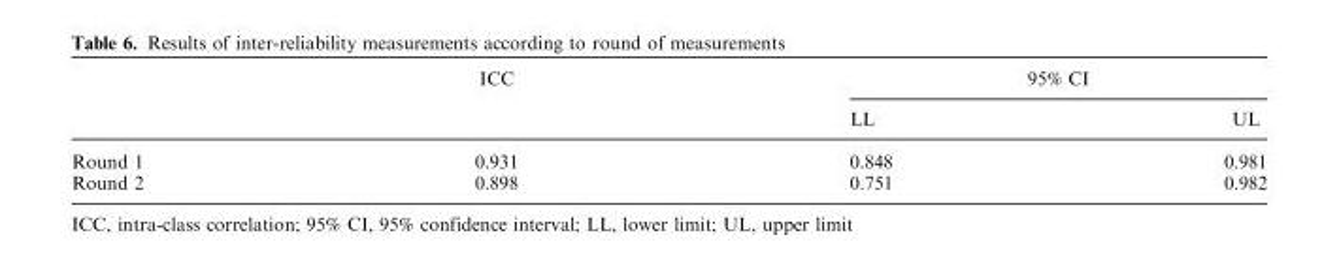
<table><thead><tr><td rowspan="2"></td><td rowspan="2">ICC</td><td colspan="2">95% CI</td></tr><tr><td>LL</td><td>UL</td></tr></thead><tbody><tr><td>Round 1</td><td>0.931</td><td>0.848</td><td>0.981</td></tr><tr><td>Round 2</td><td>0.898</td><td>0.751</td><td>0.982</td></tr></tbody></table>